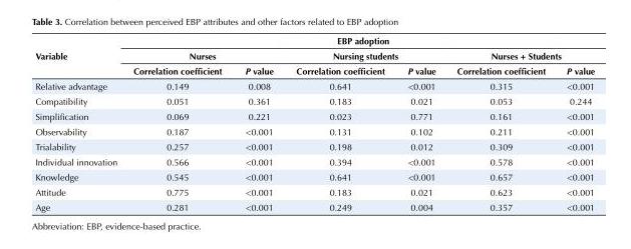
<table><tbody><tr><td rowspan="3">Variable</td><td colspan="6">EBP adoption</td></tr><tr><td colspan="2">Nurses</td><td colspan="2">Nursing students</td><td colspan="2">Nurses + Students</td></tr><tr><td>Correlation coefficient</td><td>P value</td><td>Correlation coefficient</td><td>P value</td><td>Correlation coefficient</td><td>P value</td></tr><tr><td>Relative advantage</td><td>0.149</td><td>0.008</td><td>0.641</td><td>&lt;0.001</td><td>0.315</td><td>&lt;0.001</td></tr><tr><td>Compatibility</td><td>0.051</td><td>0.361</td><td>0.183</td><td>0.021</td><td>0.053</td><td>0.244</td></tr><tr><td>Simplification</td><td>0.069</td><td>0.221</td><td>0.023</td><td>0.771</td><td>0.161</td><td>&lt;0.001</td></tr><tr><td>Observability</td><td>0.187</td><td>&lt;0.001</td><td>0.131</td><td>0.102</td><td>0.211</td><td>&lt;0.001</td></tr><tr><td>Trialability</td><td>0.257</td><td>&lt;0.001</td><td>0.198</td><td>0.012</td><td>0.309</td><td>&lt;0.001</td></tr><tr><td>Individual innovation</td><td>0.566</td><td>&lt;0.001</td><td>0.394</td><td>&lt;0.001</td><td>0.578</td><td>&lt;0.001</td></tr><tr><td>Knowledge</td><td>0.545</td><td>&lt;0.001</td><td>0.641</td><td>&lt;0.001</td><td>0.657</td><td>&lt;0.001</td></tr><tr><td>Attitude</td><td>0.775</td><td>&lt;0.001</td><td>0.183</td><td>0.021</td><td>0.623</td><td>&lt;0.001</td></tr><tr><td>Age</td><td>0.281</td><td>&lt;0.001</td><td>0.249</td><td>0.004</td><td>0.357</td><td>&lt;0.001</td></tr></tbody></table>